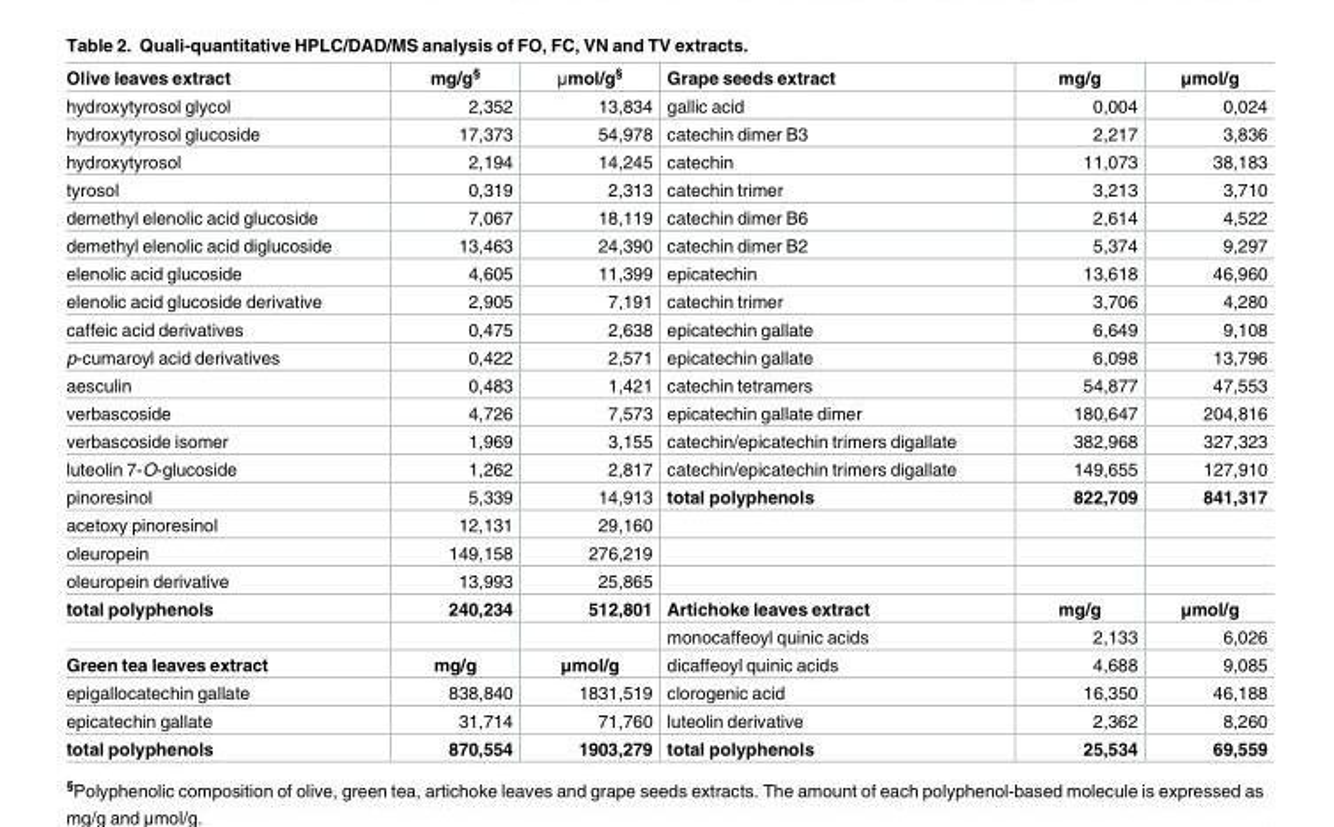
<table><tbody><tr><td>Olive leaves extract</td><td>mg/g<sup>§</sup></td><td>μmol/g<sup>§</sup></td><td>Grape seeds extract</td><td>mg/g</td><td>μmol/g</td></tr><tr><td>hydroxytyrosol glycol</td><td>2,352</td><td>13,834</td><td>gallic acid</td><td>0,004</td><td>0,024</td></tr><tr><td>hydroxytyrosol glucoside</td><td>17,373</td><td>54,978</td><td>catechin dimer B3</td><td>2,217</td><td>3,836</td></tr><tr><td>hydroxytyrosol</td><td>2,194</td><td>14,245</td><td>catechin</td><td>11,073</td><td>38,183</td></tr><tr><td>tyrosol</td><td>0,319</td><td>2,313</td><td>catechin trimer</td><td>3,213</td><td>3,710</td></tr><tr><td>demethyl elenolic acid glucoside</td><td>7,067</td><td>18,119</td><td>catechin dimer B6</td><td>2,614</td><td>4,522</td></tr><tr><td>demethyl elenolic acid diglucoside</td><td>13,463</td><td>24,390</td><td>catechin dimer B2</td><td>5,374</td><td>9,297</td></tr><tr><td>elenolic acid glucoside</td><td>4,605</td><td>11,399</td><td>epicatechin</td><td>13,618</td><td>46,960</td></tr><tr><td>elenolic acid glucoside derivative</td><td>2,905</td><td>7,191</td><td>catechin trimer</td><td>3,706</td><td>4,280</td></tr><tr><td>caffeic acid derivatives</td><td>0,475</td><td>2,638</td><td>epicatechin gallate</td><td>6,649</td><td>9,108</td></tr><tr><td>p-cumaroyl acid derivatives</td><td>0,422</td><td>2,571</td><td>epicatechin gallate</td><td>6,098</td><td>13,796</td></tr><tr><td>aesculin</td><td>0,483</td><td>1,421</td><td>catechin tetramers</td><td>54,877</td><td>47,553</td></tr><tr><td>verbascoside</td><td>4,726</td><td>7,573</td><td>epicatechin gallate dimer</td><td>180,647</td><td>204,816</td></tr><tr><td>verbascoside isomer</td><td>1,969</td><td>3,155</td><td>catechin/epicatechin trimers digallate</td><td>382,968</td><td>327,323</td></tr><tr><td>luteolin 7-O-glucoside</td><td>1,262</td><td>2,817</td><td>catechin/epicatechin trimers digallate</td><td>149,655</td><td>127,910</td></tr><tr><td>pinoresinol</td><td>5,339</td><td>14,913</td><td>total polyphenols</td><td>822,709</td><td>841,317</td></tr><tr><td>acetoxy pinoresinol</td><td>12,131</td><td>29,160</td><td></td><td></td><td></td></tr><tr><td>oleuropein</td><td>149,158</td><td>276,219</td><td></td><td></td><td></td></tr><tr><td>oleuropein derivative</td><td>13,993</td><td>25,865</td><td></td><td></td><td></td></tr><tr><td rowspan="2">total polyphenols</td><td>240,234</td><td>512,801</td><td>Artichoke leaves extract</td><td>mg/g</td><td>μmol/g</td></tr><tr><td></td><td></td><td>monocaffeoyl quinic acids</td><td>2,133</td><td>6,026</td></tr><tr><td>Green tea leaves extract</td><td>mg/g</td><td>μmol/g</td><td>dicaffeoyl quinic acids</td><td>4,688</td><td>9,085</td></tr><tr><td>epigallocatechin gallate</td><td>838,840</td><td>1831,519</td><td>clorogenic acid</td><td>16,350</td><td>46,188</td></tr><tr><td>epicatechin gallate</td><td>31,714</td><td>71,760</td><td>luteolin derivative</td><td>2,362</td><td>8,260</td></tr><tr><td>total polyphenols</td><td>870,554</td><td>1903,279</td><td>total polyphenols</td><td>25,534</td><td>69,559</td></tr></tbody></table>